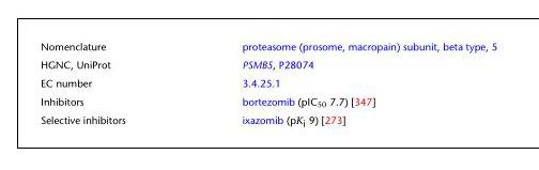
<table><tbody><tr><td>Nomenclature</td><td>proteasome (prosome, macropain) subunit, beta type, 5</td></tr><tr><td>HGNC, UniProt</td><td>PSMB5, P28074</td></tr><tr><td>EC number</td><td>3.4.25.1</td></tr><tr><td>Inhibitors</td><td>bortezomib (pIC<sub>50</sub> 7.7) [347]</td></tr><tr><td>Selective inhibitors</td><td>ixazomib (pK<sub>i</sub> 9) [273]</td></tr></tbody></table>